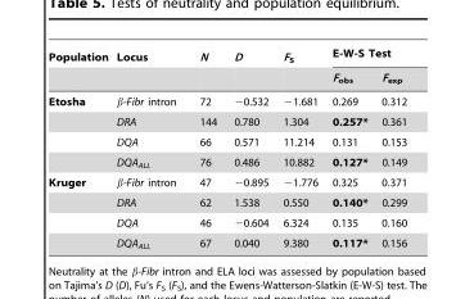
<table><thead><tr><td rowspan="2">Population</td><td rowspan="2">Locus</td><td rowspan="2">N</td><td rowspan="2">D</td><td rowspan="2">F<sub>S</sub></td><td colspan="2">E-W-S Test</td></tr><tr><td>F<sub>obs</sub></td><td>F<sub>exp</sub></td></tr></thead><tbody><tr><td rowspan="4">Etosha</td><td>β-Fibr intron</td><td>72</td><td>−0.532</td><td>−1.681</td><td>0.269</td><td>0.312</td></tr><tr><td>DRA</td><td>144</td><td>0.780</td><td>1.304</td><td>0.257*</td><td>0.361</td></tr><tr><td>DQA</td><td>66</td><td>0.571</td><td>11.214</td><td>0.131</td><td>0.153</td></tr><tr><td>DQA<sub>ALL</sub></td><td>76</td><td>0.486</td><td>10.882</td><td>0.127*</td><td>0.149</td></tr><tr><td rowspan="4">Kruger</td><td>β-Fibr intron</td><td>47</td><td>−0.895</td><td>−1.776</td><td>0.325</td><td>0.371</td></tr><tr><td>DRA</td><td>62</td><td>1.538</td><td>0.550</td><td>0.140*</td><td>0.299</td></tr><tr><td>DQA</td><td>46</td><td>−0.604</td><td>6.324</td><td>0.135</td><td>0.160</td></tr><tr><td>DQA<sub>ALL</sub></td><td>67</td><td>0.040</td><td>9.380</td><td>0.117*</td><td>0.156</td></tr></tbody></table>